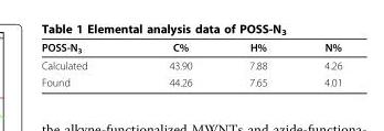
<table><thead><tr><td>POSS-N<sub>3</sub></td><td>C%</td><td>H%</td><td>N%</td></tr></thead><tbody><tr><td>Calculated</td><td>43.90</td><td>7.88</td><td>4.26</td></tr><tr><td>Found</td><td>44.26</td><td>7.65</td><td>4.01</td></tr></tbody></table>